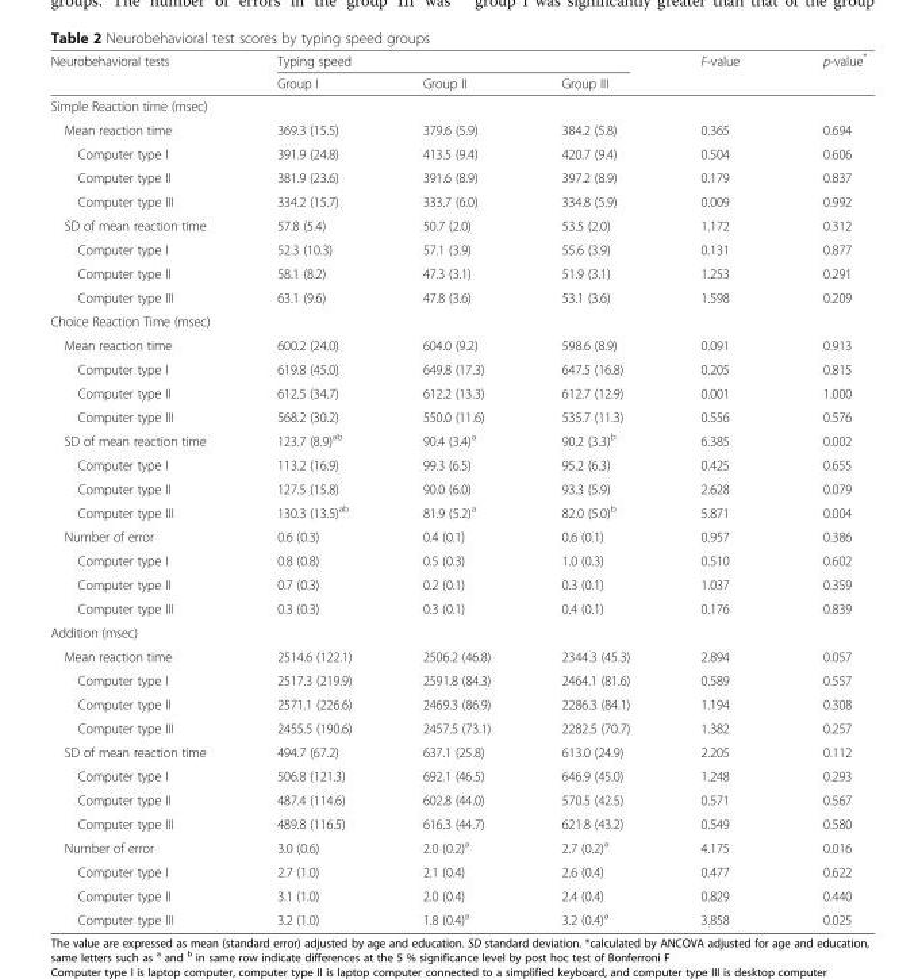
<table><thead><tr><td rowspan="2">Neurobehavioral tests</td><td colspan="3">Typing speed</td><td rowspan="2">F-value</td><td rowspan="2">p-value*</td></tr><tr><td>Group I</td><td>Group II</td><td>Group III</td></tr></thead><tbody><tr><td colspan="6">Simple Reaction time (msec)</td></tr><tr><td>Mean reaction time</td><td>369.3 (15.5)</td><td>379.6 (5.9)</td><td>384.2 (5.8)</td><td>0.365</td><td>0.694</td></tr><tr><td>Computer type I</td><td>391.9 (24.8)</td><td>413.5 (9.4)</td><td>420.7 (9.4)</td><td>0.504</td><td>0.606</td></tr><tr><td>Computer type II</td><td>381.9 (23.6)</td><td>391.6 (8.9)</td><td>397.2 (8.9)</td><td>0.179</td><td>0.837</td></tr><tr><td>Computer type III</td><td>334.2 (15.7)</td><td>333.7 (6.0)</td><td>334.8 (5.9)</td><td>0.009</td><td>0.992</td></tr><tr><td>SD of mean reaction time</td><td>57.8 (5.4)</td><td>50.7 (2.0)</td><td>53.5 (2.0)</td><td>1.172</td><td>0.312</td></tr><tr><td>Computer type I</td><td>52.3 (10.3)</td><td>57.1 (3.9)</td><td>55.6 (3.9)</td><td>0.131</td><td>0.877</td></tr><tr><td>Computer type II</td><td>58.1 (8.2)</td><td>47.3 (3.1)</td><td>51.9 (3.1)</td><td>1.253</td><td>0.291</td></tr><tr><td>Computer type III</td><td>63.1 (9.6)</td><td>47.8 (3.6)</td><td>53.1 (3.6)</td><td>1.598</td><td>0.209</td></tr><tr><td colspan="6">Choice Reaction Time (msec)</td></tr><tr><td>Mean reaction time</td><td>600.2 (24.0)</td><td>604.0 (9.2)</td><td>598.6 (8.9)</td><td>0.091</td><td>0.913</td></tr><tr><td>Computer type I</td><td>619.8 (45.0)</td><td>649.8 (17.3)</td><td>647.5 (16.8)</td><td>0.205</td><td>0.815</td></tr><tr><td>Computer type II</td><td>612.5 (34.7)</td><td>612.2 (13.3)</td><td>612.7 (12.9)</td><td>0.001</td><td>1.000</td></tr><tr><td>Computer type III</td><td>568.2 (30.2)</td><td>550.0 (11.6)</td><td>535.7 (11.3)</td><td>0.556</td><td>0.576</td></tr><tr><td>SD of mean reaction time</td><td>123.7 (8.9)<sup>ab</sup></td><td>90.4 (3.4)<sup>a</sup></td><td>90.2 (3.3)<sup>b</sup></td><td>6.385</td><td>0.002</td></tr><tr><td>Computer type I</td><td>113.2 (16.9)</td><td>99.3 (6.5)</td><td>95.2 (6.3)</td><td>0.425</td><td>0.655</td></tr><tr><td>Computer type II</td><td>127.5 (15.8)</td><td>90.0 (6.0)</td><td>93.3 (5.9)</td><td>2.628</td><td>0.079</td></tr><tr><td>Computer type III</td><td>130.3 (13.5)<sup>ab</sup></td><td>81.9 (5.2)<sup>a</sup></td><td>82.0 (5.0)<sup>b</sup></td><td>5.871</td><td>0.004</td></tr><tr><td>Number of error</td><td>0.6 (0.3)</td><td>0.4 (0.1)</td><td>0.6 (0.1)</td><td>0.957</td><td>0.386</td></tr><tr><td>Computer type I</td><td>0.8 (0.8)</td><td>0.5 (0.3)</td><td>1.0 (0.3)</td><td>0.510</td><td>0.602</td></tr><tr><td>Computer type II</td><td>0.7 (0.3)</td><td>0.2 (0.1)</td><td>0.3 (0.1)</td><td>1.037</td><td>0.359</td></tr><tr><td>Computer type III</td><td>0.3 (0.3)</td><td>0.3 (0.1)</td><td>0.4 (0.1)</td><td>0.176</td><td>0.839</td></tr><tr><td colspan="6">Addition (msec)</td></tr><tr><td>Mean reaction time</td><td>2514.6 (122.1)</td><td>2506.2 (46.8)</td><td>2344.3 (45.3)</td><td>2.894</td><td>0.057</td></tr><tr><td>Computer type I</td><td>2517.3 (219.9)</td><td>2591.8 (84.3)</td><td>2464.1 (81.6)</td><td>0.589</td><td>0.557</td></tr><tr><td>Computer type II</td><td>2571.1 (226.6)</td><td>2469.3 (86.9)</td><td>2286.3 (84.1)</td><td>1.194</td><td>0.308</td></tr><tr><td>Computer type III</td><td>2455.5 (190.6)</td><td>2457.5 (73.1)</td><td>2282.5 (70.7)</td><td>1.382</td><td>0.257</td></tr><tr><td>SD of mean reaction time</td><td>494.7 (67.2)</td><td>637.1 (25.8)</td><td>613.0 (24.9)</td><td>2.205</td><td>0.112</td></tr><tr><td>Computer type I</td><td>506.8 (121.3)</td><td>692.1 (46.5)</td><td>646.9 (45.0)</td><td>1.248</td><td>0.293</td></tr><tr><td>Computer type II</td><td>487.4 (114.6)</td><td>602.8 (44.0)</td><td>570.5 (42.5)</td><td>0.571</td><td>0.567</td></tr><tr><td>Computer type III</td><td>489.8 (116.5)</td><td>616.3 (44.7)</td><td>621.8 (43.2)</td><td>0.549</td><td>0.580</td></tr><tr><td>Number of error</td><td>3.0 (0.6)</td><td>2.0 (0.2)<sup>a</sup></td><td>2.7 (0.2)<sup>a</sup></td><td>4.175</td><td>0.016</td></tr><tr><td>Computer type I</td><td>2.7 (1.0)</td><td>2.1 (0.4)</td><td>2.6 (0.4)</td><td>0.477</td><td>0.622</td></tr><tr><td>Computer type II</td><td>3.1 (1.0)</td><td>2.0 (0.4)</td><td>2.4 (0.4)</td><td>0.829</td><td>0.440</td></tr><tr><td>Computer type III</td><td>3.2 (1.0)</td><td>1.8 (0.4)<sup>a</sup></td><td>3.2 (0.4)<sup>a</sup></td><td>3.858</td><td>0.025</td></tr></tbody></table>